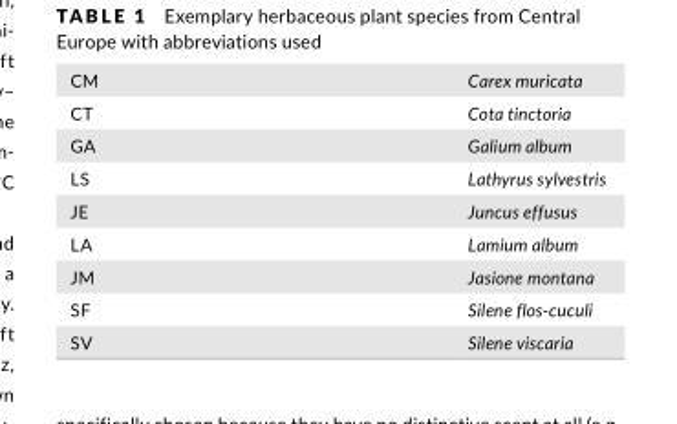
<table><tbody><tr><td>CM</td><td>Carex muricata</td></tr><tr><td>CT</td><td>Cota tinctoria</td></tr><tr><td>GA</td><td>Galium album</td></tr><tr><td>LS</td><td>Lathyrus sylvestris</td></tr><tr><td>JE</td><td>Juncus effusus</td></tr><tr><td>LA</td><td>Lamium album</td></tr><tr><td>JM</td><td>Jasione montana</td></tr><tr><td>SF</td><td>Silene flos-cuculi</td></tr><tr><td>SV</td><td>Silene viscaria</td></tr></tbody></table>